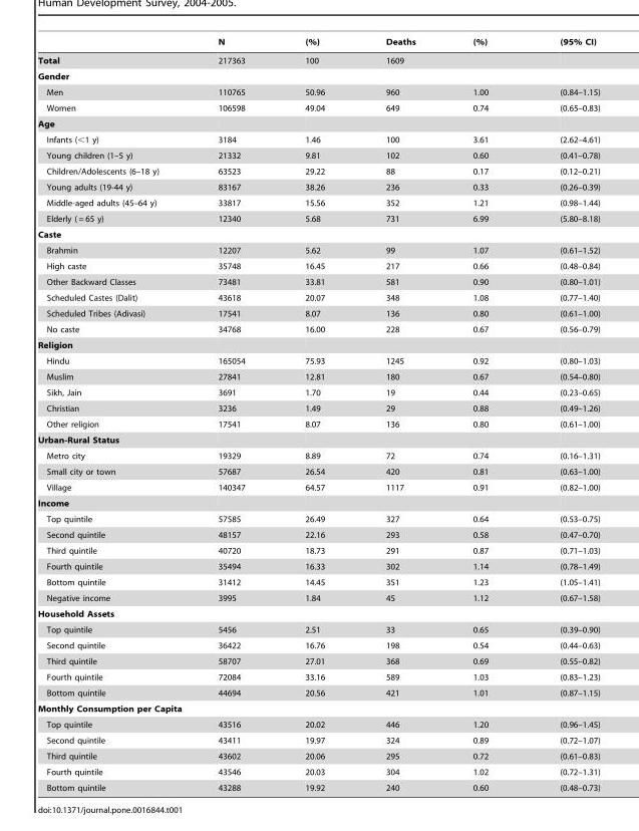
<table><thead><tr><td></td><td>N</td><td>(%)</td><td>Deaths</td><td>(%)</td><td>(95% CI)</td></tr></thead><tbody><tr><td>Total</td><td>217363</td><td>100</td><td>1609</td><td></td><td></td></tr><tr><td colspan="6">Gender</td></tr><tr><td>Men</td><td>110765</td><td>50.96</td><td>960</td><td>1.00</td><td>(0.84–1.15)</td></tr><tr><td>Women</td><td>106598</td><td>49.04</td><td>649</td><td>0.74</td><td>(0.65–0.83)</td></tr><tr><td colspan="6">Age</td></tr><tr><td>Infants (&lt;1 y)</td><td>3184</td><td>1.46</td><td>100</td><td>3.61</td><td>(2.62–4.61)</td></tr><tr><td>Young children (1–5 y)</td><td>21332</td><td>9.81</td><td>102</td><td>0.60</td><td>(0.41–0.78)</td></tr><tr><td>Children/Adolescents (6–18 y)</td><td>63523</td><td>29.22</td><td>88</td><td>0.17</td><td>(0.12–0.21)</td></tr><tr><td>Young adults (19-44 y)</td><td>83167</td><td>38.26</td><td>236</td><td>0.33</td><td>(0.26–0.39)</td></tr><tr><td>Middle-aged adults (45–64 y)</td><td>33817</td><td>15.56</td><td>352</td><td>1.21</td><td>(0.98–1.44)</td></tr><tr><td>Elderly ( = 65 y)</td><td>12340</td><td>5.68</td><td>731</td><td>6.99</td><td>(5.80–8.18)</td></tr><tr><td colspan="6">Caste</td></tr><tr><td>Brahmin</td><td>12207</td><td>5.62</td><td>99</td><td>1.07</td><td>(0.61–1.52)</td></tr><tr><td>High caste</td><td>35748</td><td>16.45</td><td>217</td><td>0.66</td><td>(0.48–0.84)</td></tr><tr><td>Other Backward Classes</td><td>73481</td><td>33.81</td><td>581</td><td>0.90</td><td>(0.80–1.01)</td></tr><tr><td>Scheduled Castes (Dalit)</td><td>43618</td><td>20.07</td><td>348</td><td>1.08</td><td>(0.77–1.40)</td></tr><tr><td>Scheduled Tribes (Adivasi)</td><td>17541</td><td>8.07</td><td>136</td><td>0.80</td><td>(0.61–1.00)</td></tr><tr><td>No caste</td><td>34768</td><td>16.00</td><td>228</td><td>0.67</td><td>(0.56–0.79)</td></tr><tr><td colspan="6">Religion</td></tr><tr><td>Hindu</td><td>165054</td><td>75.93</td><td>1245</td><td>0.92</td><td>(0.80–1.03)</td></tr><tr><td>Muslim</td><td>27841</td><td>12.81</td><td>180</td><td>0.67</td><td>(0.54–0.80)</td></tr><tr><td>Sikh, Jain</td><td>3691</td><td>1.70</td><td>19</td><td>0.44</td><td>(0.23–0.65)</td></tr><tr><td>Christian</td><td>3236</td><td>1.49</td><td>29</td><td>0.88</td><td>(0.49–1.26)</td></tr><tr><td>Other religion</td><td>17541</td><td>8.07</td><td>136</td><td>0.80</td><td>(0.61–1.00)</td></tr><tr><td colspan="6">Urban-Rural Status</td></tr><tr><td>Metro city</td><td>19329</td><td>8.89</td><td>72</td><td>0.74</td><td>(0.16–1.31)</td></tr><tr><td>Small city or town</td><td>57687</td><td>26.54</td><td>420</td><td>0.81</td><td>(0.63–1.00)</td></tr><tr><td>Village</td><td>140347</td><td>64.57</td><td>1117</td><td>0.91</td><td>(0.82–1.00)</td></tr><tr><td colspan="6">Income</td></tr><tr><td>Top quintile</td><td>57585</td><td>26.49</td><td>327</td><td>0.64</td><td>(0.53–0.75)</td></tr><tr><td>Second quintile</td><td>48157</td><td>22.16</td><td>293</td><td>0.58</td><td>(0.47–0.70)</td></tr><tr><td>Third quintile</td><td>40720</td><td>18.73</td><td>291</td><td>0.87</td><td>(0.71–1.03)</td></tr><tr><td>Fourth quintile</td><td>35494</td><td>16.33</td><td>302</td><td>1.14</td><td>(0.78–1.49)</td></tr><tr><td>Bottom quintile</td><td>31412</td><td>14.45</td><td>351</td><td>1.23</td><td>(1.05–1.41)</td></tr><tr><td>Negative income</td><td>3995</td><td>1.84</td><td>45</td><td>1.12</td><td>(0.67–1.58)</td></tr><tr><td colspan="6">Household Assets</td></tr><tr><td>Top quintile</td><td>5456</td><td>2.51</td><td>33</td><td>0.65</td><td>(0.39–0.90)</td></tr><tr><td>Second quintile</td><td>36422</td><td>16.76</td><td>198</td><td>0.54</td><td>(0.44–0.63)</td></tr><tr><td>Third quintile</td><td>58707</td><td>27.01</td><td>368</td><td>0.69</td><td>(0.55–0.82)</td></tr><tr><td>Fourth quintile</td><td>72084</td><td>33.16</td><td>589</td><td>1.03</td><td>(0.83–1.23)</td></tr><tr><td>Bottom quintile</td><td>44694</td><td>20.56</td><td>421</td><td>1.01</td><td>(0.87–1.15)</td></tr><tr><td colspan="6">Monthly Consumption per Capita</td></tr><tr><td>Top quintile</td><td>43516</td><td>20.02</td><td>446</td><td>1.20</td><td>(0.96–1.45)</td></tr><tr><td>Second quintile</td><td>43411</td><td>19.97</td><td>324</td><td>0.89</td><td>(0.72–1.07)</td></tr><tr><td>Third quintile</td><td>43602</td><td>20.06</td><td>295</td><td>0.72</td><td>(0.61–0.83)</td></tr><tr><td>Fourth quintile</td><td>43546</td><td>20.03</td><td>304</td><td>1.02</td><td>(0.72–1.31)</td></tr><tr><td>Bottom quintile</td><td>43288</td><td>19.92</td><td>240</td><td>0.60</td><td>(0.48–0.73)</td></tr></tbody></table>